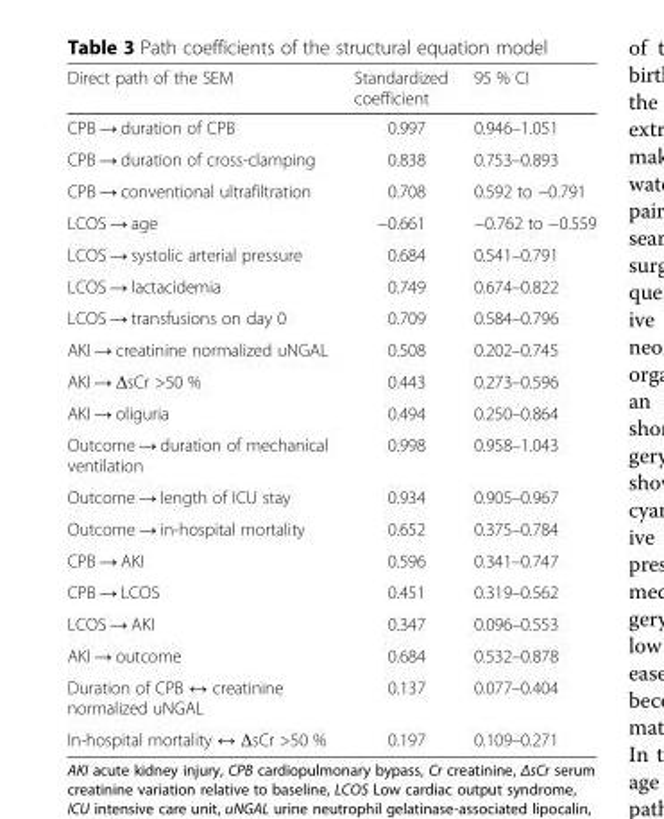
<table><thead><tr><td>Direct path of the SEM</td><td>Standardized coefficient</td><td>95 % CI</td></tr></thead><tbody><tr><td>CPB → duration of CPB</td><td>0.997</td><td>0.946–1.051</td></tr><tr><td>CPB → duration of cross-clamping</td><td>0.838</td><td>0.753–0.893</td></tr><tr><td>CPB → conventional ultrafiltration</td><td>0.708</td><td>0.592 to −0.791</td></tr><tr><td>LCOS → age</td><td>−0.661</td><td>−0.762 to −0.559</td></tr><tr><td>LCOS → systolic arterial pressure</td><td>0.684</td><td>0.541–0.791</td></tr><tr><td>LCOS → lactacidemia</td><td>0.749</td><td>0.674–0.822</td></tr><tr><td>LCOS → transfusions on day 0</td><td>0.709</td><td>0.584–0.796</td></tr><tr><td>AKI → creatinine normalized uNGAL</td><td>0.508</td><td>0.202–0.745</td></tr><tr><td>AKI → ΔsCr &gt;50 %</td><td>0.443</td><td>0.273–0.596</td></tr><tr><td>AKI → oliguria</td><td>0.494</td><td>0.250–0.864</td></tr><tr><td>Outcome → duration of mechanical ventilation</td><td>0.998</td><td>0.958–1.043</td></tr><tr><td>Outcome → length of ICU stay</td><td>0.934</td><td>0.905–0.967</td></tr><tr><td>Outcome → in-hospital mortality</td><td>0.652</td><td>0.375–0.784</td></tr><tr><td>CPB → AKI</td><td>0.596</td><td>0.341–0.747</td></tr><tr><td>CPB → LCOS</td><td>0.451</td><td>0.319–0.562</td></tr><tr><td>LCOS → AKI</td><td>0.347</td><td>0.096–0.553</td></tr><tr><td>AKI → outcome</td><td>0.684</td><td>0.532–0.878</td></tr><tr><td>Duration of CPB ↔ creatinine normalized uNGAL</td><td>0.137</td><td>0.077–0.404</td></tr><tr><td>In-hospital mortality ↔ ΔsCr &gt;50 %</td><td>0.197</td><td>0.109–0.271</td></tr></tbody></table>